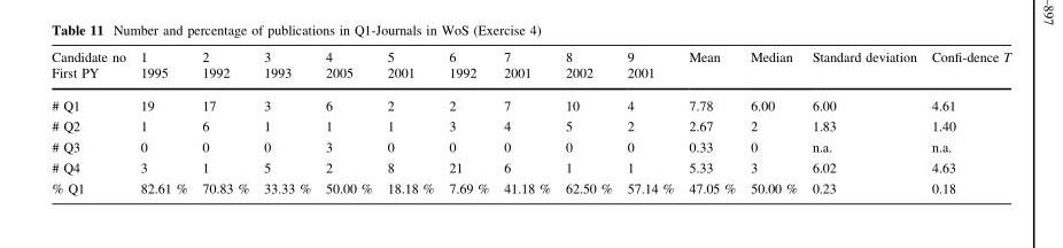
<table><thead><tr><td rowspan="2">Candidate no First PY</td><td rowspan="2">1 1995</td><td rowspan="2">2 1992</td><td rowspan="2">3 1993</td><td rowspan="2">4 2005</td><td rowspan="2">5 2001</td><td rowspan="2">6 1992</td><td rowspan="2">7 2001</td><td rowspan="2">8 2002</td><td rowspan="2">9 2001</td><td rowspan="2">Mean</td><td rowspan="2">Median</td><td rowspan="2">Standard deviation</td><td rowspan="2">Confi-dence T</td></tr><tr></tr></thead><tbody><tr><td># Q1</td><td>19</td><td>17</td><td>3</td><td>6</td><td>2</td><td>2</td><td>7</td><td>10</td><td>4</td><td>7.78</td><td>6.00</td><td>6.00</td><td>4.61</td></tr><tr><td># Q2</td><td>1</td><td>6</td><td>1</td><td>1</td><td>1</td><td>3</td><td>4</td><td>5</td><td>2</td><td>2.67</td><td>2</td><td>1.83</td><td>1.40</td></tr><tr><td># Q3</td><td>0</td><td>0</td><td>0</td><td>3</td><td>0</td><td>0</td><td>0</td><td>0</td><td>0</td><td>0.33</td><td>0</td><td>n.a.</td><td>n.a.</td></tr><tr><td># Q4</td><td>3</td><td>1</td><td>5</td><td>2</td><td>8</td><td>21</td><td>6</td><td>1</td><td>1</td><td>5.33</td><td>3</td><td>6.02</td><td>4.63</td></tr><tr><td>% Q1</td><td>82.61 %</td><td>70.83 %</td><td>33.33 %</td><td>50.00 %</td><td>18.18 %</td><td>7.69 %</td><td>41.18 %</td><td>62.50 %</td><td>57.14 %</td><td>47.05 %</td><td>50.00 %</td><td>0.23</td><td>0.18</td></tr></tbody></table>